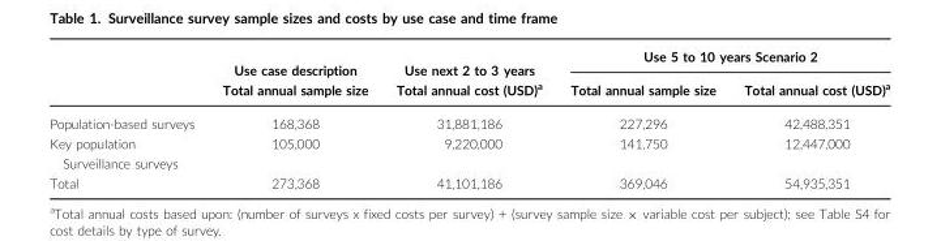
<table><thead><tr><td rowspan="2"></td><td rowspan="2">Use case description Total annual sample size</td><td rowspan="2">Use next 2 to 3 years Total annual cost (USD)<sup>a</sup></td><td colspan="2">Use 5 to 10 years Scenario 2</td></tr><tr><td>Total annual sample size</td><td>Total annual cost (USD)<sup>a</sup></td></tr></thead><tbody><tr><td>Population-based surveys</td><td>168,368</td><td>31,881,186</td><td>227,296</td><td>42,488,351</td></tr><tr><td>Key population Surveillance surveys</td><td>105,000</td><td>9,220,000</td><td>141,750</td><td>12,447,000</td></tr><tr><td>Total</td><td>273,368</td><td>41,101,186</td><td>369,046</td><td>54,935,351</td></tr></tbody></table>